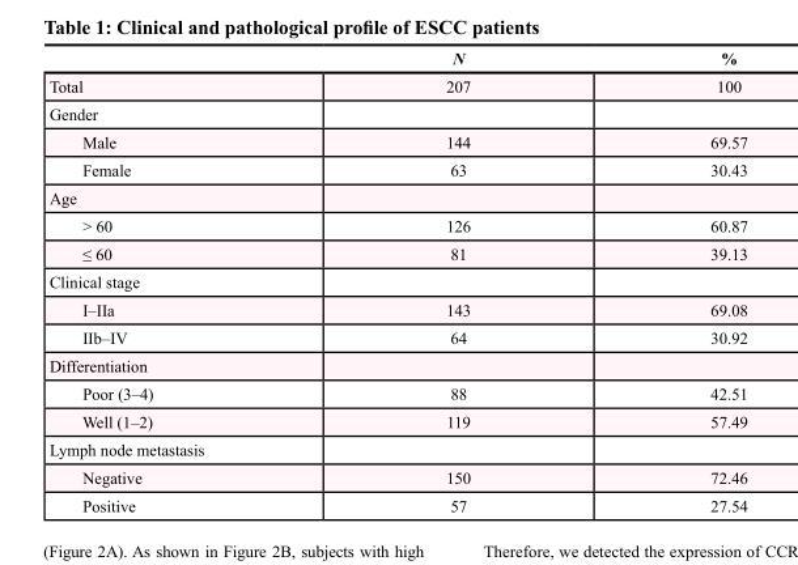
<table><thead><tr><td></td><td>N</td><td>%</td></tr></thead><tbody><tr><td>Total</td><td>207</td><td>100</td></tr><tr><td colspan="3">Gender</td></tr><tr><td>Male</td><td>144</td><td>69.57</td></tr><tr><td>Female</td><td>63</td><td>30.43</td></tr><tr><td colspan="3">Age</td></tr><tr><td>&gt; 60</td><td>126</td><td>60.87</td></tr><tr><td>≤ 60</td><td>81</td><td>39.13</td></tr><tr><td colspan="3">Clinical stage</td></tr><tr><td>I–IIa</td><td>143</td><td>69.08</td></tr><tr><td>IIb–IV</td><td>64</td><td>30.92</td></tr><tr><td colspan="3">Differentiation</td></tr><tr><td>Poor (3–4)</td><td>88</td><td>42.51</td></tr><tr><td>Well (1–2)</td><td>119</td><td>57.49</td></tr><tr><td colspan="3">Lymph node metastasis</td></tr><tr><td>Negative</td><td>150</td><td>72.46</td></tr><tr><td>Positive</td><td>57</td><td>27.54</td></tr></tbody></table>